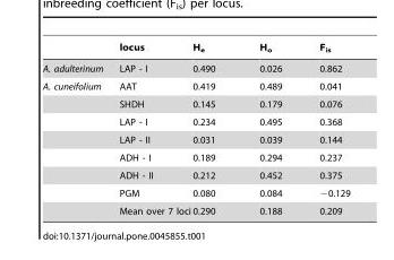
<table><thead><tr><td></td><td>locus</td><td>H<sub>e</sub></td><td>H<sub>o</sub></td><td>F<sub>is</sub></td></tr></thead><tbody><tr><td>A. adulterinum</td><td>LAP - I</td><td>0.490</td><td>0.026</td><td>0.862</td></tr><tr><td rowspan="8">A. cuneifolium</td><td>AAT</td><td>0.419</td><td>0.489</td><td>0.041</td></tr><tr><td>SHDH</td><td>0.145</td><td>0.179</td><td>0.076</td></tr><tr><td>LAP - I</td><td>0.234</td><td>0.495</td><td>0.368</td></tr><tr><td>LAP - II</td><td>0.031</td><td>0.039</td><td>0.144</td></tr><tr><td>ADH - I</td><td>0.189</td><td>0.294</td><td>0.237</td></tr><tr><td>ADH - II</td><td>0.212</td><td>0.452</td><td>0.375</td></tr><tr><td>PGM</td><td>0.080</td><td>0.084</td><td>−0.129</td></tr><tr><td>Mean over 7 loci</td><td>0.290</td><td>0.188</td><td>0.209</td></tr></tbody></table>